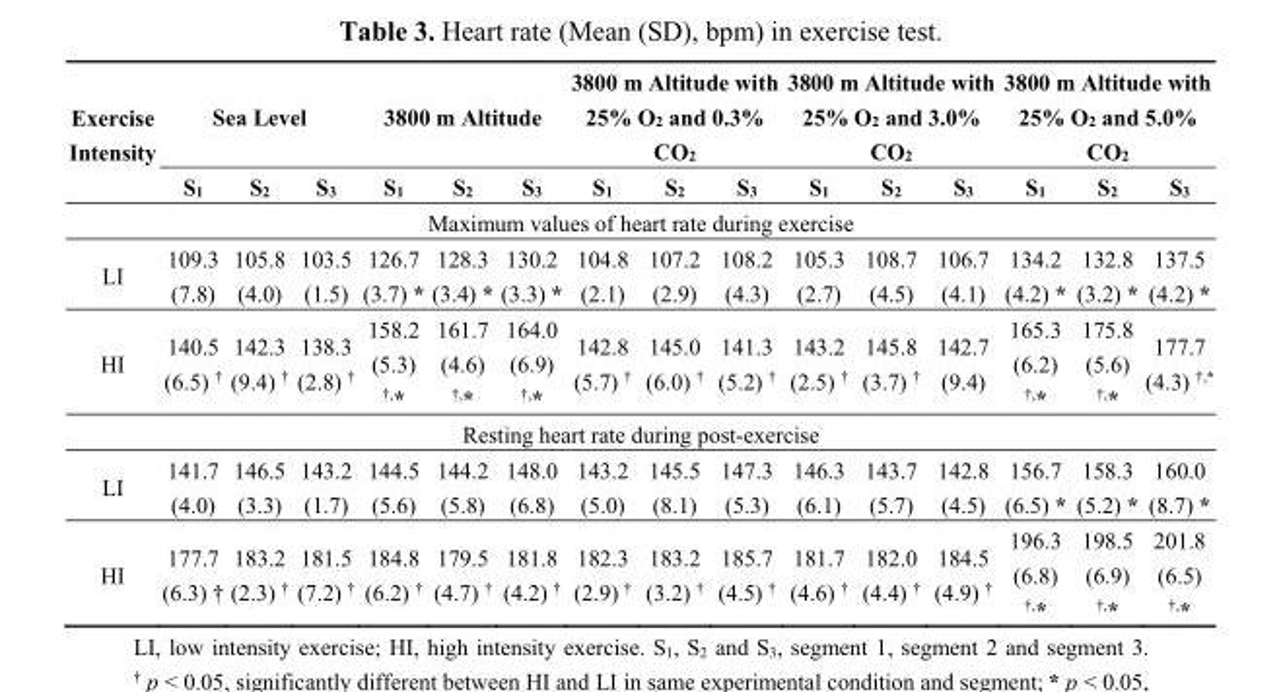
<table><thead><tr><td rowspan="2">Exercise Intensity</td><td colspan="3">Sea Level</td><td colspan="3">3800 m Altitude</td><td colspan="3">3800 m Altitude with 25% O<sub>2</sub> and 0.3% CO<sub>2</sub></td><td colspan="3">3800 m Altitude with 25% O<sub>2</sub> and 3.0% CO<sub>2</sub></td><td colspan="3">3800 m Altitude with 25% O<sub>2</sub> and 5.0% CO<sub>2</sub></td></tr><tr><td>S<sub>1</sub></td><td>S<sub>2</sub></td><td>S<sub>3</sub></td><td>S<sub>1</sub></td><td>S<sub>2</sub></td><td>S<sub>3</sub></td><td>S<sub>1</sub></td><td>S<sub>2</sub></td><td>S<sub>3</sub></td><td>S<sub>1</sub></td><td>S<sub>2</sub></td><td>S<sub>3</sub></td><td>S<sub>1</sub></td><td>S<sub>2</sub></td><td>S<sub>3</sub></td></tr></thead><tbody><tr><td colspan="16">Maximum values of heart rate during exercise</td></tr><tr><td>LI</td><td>109.3 (7.8)</td><td>105.8 (4.0)</td><td>103.5 (1.5)</td><td>126.7 (3.7) *</td><td>128.3 (3.4) *</td><td>130.2 (3.3) *</td><td>104.8 (2.1)</td><td>107.2 (2.9)</td><td>108.2 (4.3)</td><td>105.3 (2.7)</td><td>108.7 (4.5)</td><td>106.7 (4.1)</td><td>134.2 (4.2) *</td><td>132.8 (3.2) *</td><td>137.5 (4.2) *</td></tr><tr><td>HI</td><td>140.5 (6.5) <sup>†</sup></td><td>142.3 (9.4) <sup>†</sup></td><td>138.3 (2.8) <sup>†</sup></td><td>158.2 (5.3) <sup>†,</sup>*</td><td>161.7 (4.6) <sup>†,</sup>*</td><td>164.0 (6.9) <sup>†,</sup>*</td><td>142.8 (5.7) <sup>†</sup></td><td>145.0 (6.0) <sup>†</sup></td><td>141.3 (5.2) <sup>†</sup></td><td>143.2 (2.5) <sup>†</sup></td><td>145.8 (3.7) <sup>†</sup></td><td>142.7 (9.4)</td><td>165.3 (6.2) <sup>†,</sup>*</td><td>175.8 (5.6) <sup>†,</sup>*</td><td>177.7 (4.3) <sup>†,*</sup></td></tr><tr><td colspan="16">Resting heart rate during post-exercise</td></tr><tr><td>LI</td><td>141.7 (4.0)</td><td>146.5 (3.3)</td><td>143.2 (1.7)</td><td>144.5 (5.6)</td><td>144.2 (5.8)</td><td>148.0 (6.8)</td><td>143.2 (5.0)</td><td>145.5 (8.1)</td><td>147.3 (5.3)</td><td>146.3 (6.1)</td><td>143.7 (5.7)</td><td>142.8 (4.5)</td><td>156.7 (6.5) *</td><td>158.3 (5.2) *</td><td>160.0 (8.7) *</td></tr><tr><td>HI</td><td>177.7 (6.3) †</td><td>183.2 (2.3) <sup>†</sup></td><td>181.5 (7.2) <sup>†</sup></td><td>184.8 (6.2) <sup>†</sup></td><td>179.5 (4.7) <sup>†</sup></td><td>181.8 (4.2) <sup>†</sup></td><td>182.3 (2.9) <sup>†</sup></td><td>183.2 (3.2) <sup>†</sup></td><td>185.7 (4.5) <sup>†</sup></td><td>181.7 (4.6) <sup>†</sup></td><td>182.0 (4.4) <sup>†</sup></td><td>184.5 (4.9) <sup>†</sup></td><td>196.3 (6.8) <sup>†,</sup>*</td><td>198.5 (6.9) <sup>†,</sup>*</td><td>201.8 (6.5) <sup>†,</sup>*</td></tr></tbody></table>